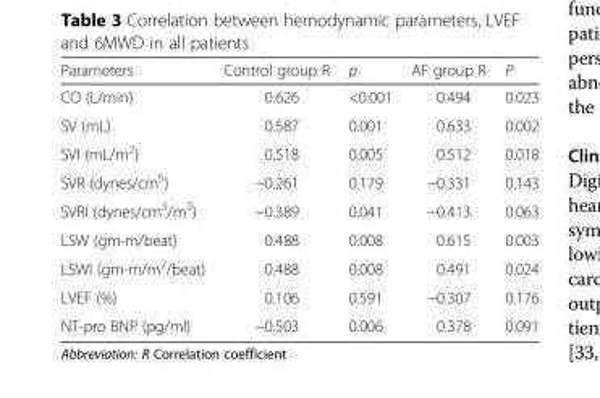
<table><thead><tr><td>Parameters</td><td>Control group R</td><td>p</td><td>AF group R</td><td>P</td></tr></thead><tbody><tr><td>CO (L/min)</td><td>0.626</td><td>&lt;0.001</td><td>0.494</td><td>0.023</td></tr><tr><td>SV (mL)</td><td>0.587</td><td>0.001</td><td>0.633</td><td>0.002</td></tr><tr><td>SVI (mL/m<sup>2</sup>)</td><td>0.518</td><td>0.005</td><td>0.512</td><td>0.018</td></tr><tr><td>SVR (dynes/cm<sup>5</sup>)</td><td>−0.261</td><td>0.179</td><td>−0.331</td><td>0.143</td></tr><tr><td>SVRI (dynes/cm<sup>5</sup>/m<sup>2</sup>)</td><td>−0.389</td><td>0.041</td><td>−0.413</td><td>0.063</td></tr><tr><td>LSW (gm-m/beat)</td><td>0.488</td><td>0.008</td><td>0.615</td><td>0.003</td></tr><tr><td>LSWI (gm-m/m<sup>2</sup>/beat)</td><td>0.488</td><td>0.008</td><td>0.491</td><td>0.024</td></tr><tr><td>LVEF (%)</td><td>0.106</td><td>0.591</td><td>−0.307</td><td>0.176</td></tr><tr><td>NT-pro BNP (pg/ml)</td><td>−0.503</td><td>0.006</td><td>0.378</td><td>0.091</td></tr></tbody></table>